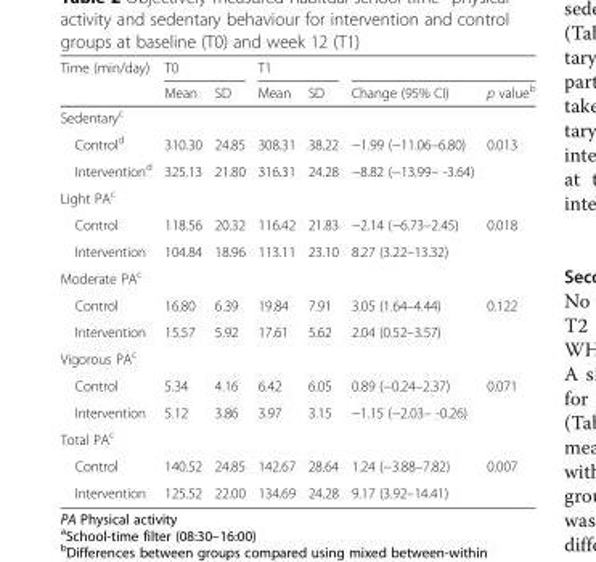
<table><thead><tr><td rowspan="2">Time (min/day)</td><td colspan="2">T0</td><td colspan="2">T1</td><td rowspan="2">Change (95% CI)</td><td rowspan="2">p value<sup>b</sup></td></tr><tr><td>Mean</td><td>SD</td><td>Mean</td><td>SD</td></tr></thead><tbody><tr><td colspan="7">Sedentary<sup>c</sup></td></tr><tr><td>Control<sup>d</sup></td><td>310.30</td><td>24.85</td><td>308.31</td><td>38.22</td><td>−1.99 (−11.06–6.80)</td><td rowspan="2">0.013</td></tr><tr><td>Intervention<sup>d</sup></td><td>325.13</td><td>21.80</td><td>316.31</td><td>24.28</td><td>−8.82 (−13.99– -3.64)</td></tr><tr><td colspan="7">Light PA<sup>c</sup></td></tr><tr><td>Control</td><td>118.56</td><td>20.32</td><td>116.42</td><td>21.83</td><td>−2.14 (−6.73–2.45)</td><td rowspan="2">0.018</td></tr><tr><td>Intervention</td><td>104.84</td><td>18.96</td><td>113.11</td><td>23.10</td><td>8.27 (3.22–13.32)</td></tr><tr><td colspan="7">Moderate PA<sup>c</sup></td></tr><tr><td>Control</td><td>16.80</td><td>6.39</td><td>19.84</td><td>7.91</td><td>3.05 (1.64–4.44)</td><td rowspan="2">0.122</td></tr><tr><td>Intervention</td><td>15.57</td><td>5.92</td><td>17.61</td><td>5.62</td><td>2.04 (0.52–3.57)</td></tr><tr><td colspan="7">Vigorous PA<sup>c</sup></td></tr><tr><td>Control</td><td>5.34</td><td>4.16</td><td>6.42</td><td>6.05</td><td>0.89 (−0.24–2.37)</td><td rowspan="2">0.071</td></tr><tr><td>Intervention</td><td>5.12</td><td>3.86</td><td>3.97</td><td>3.15</td><td>−1.15 (−2.03– -0.26)</td></tr><tr><td colspan="7">Total PA<sup>c</sup></td></tr><tr><td>Control</td><td>140.52</td><td>24.85</td><td>142.67</td><td>28.64</td><td>1.24 (−3.88–7.82)</td><td rowspan="2">0.007</td></tr><tr><td>Intervention</td><td>125.52</td><td>22.00</td><td>134.69</td><td>24.28</td><td>9.17 (3.92–14.41)</td></tr></tbody></table>